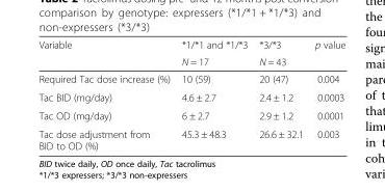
<table><thead><tr><td rowspan="2">Variable</td><td rowspan="2">*1/*1 and *1/*3 N = 17</td><td rowspan="2">*3/*3 N = 43</td><td rowspan="2">p value</td></tr><tr></tr></thead><tbody><tr><td>Required Tac dose increase (%)</td><td>10 (59)</td><td>20 (47)</td><td>0.004</td></tr><tr><td>Tac BID (mg/day)</td><td>4.6 ± 2.7</td><td>2.4 ± 1.2</td><td>0.0003</td></tr><tr><td>Tac OD (mg/day)</td><td>6 ± 2.7</td><td>2.9 ± 1.2</td><td>0.0001</td></tr><tr><td>Tac dose adjustment from BID to OD (%)</td><td>45.3 ± 48.3</td><td>26.6 ± 32.1</td><td>0.003</td></tr></tbody></table>